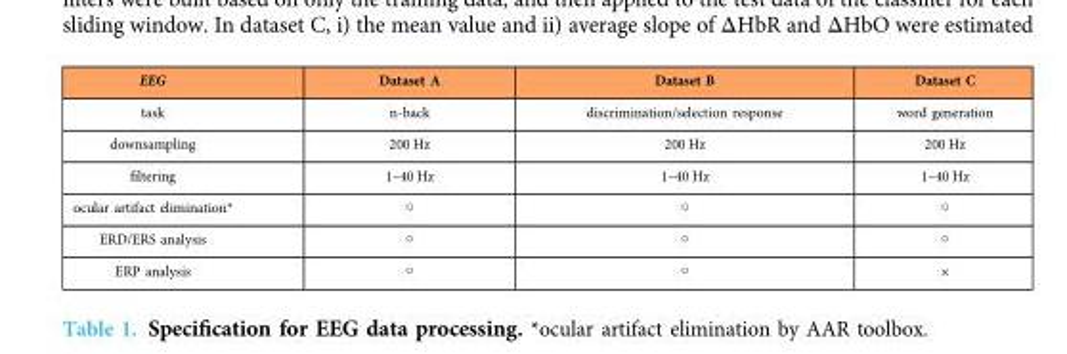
<table><thead><tr><td>EEG</td><td>Dataset A</td><td>Dataset B</td><td>Dataset C</td></tr></thead><tbody><tr><td>task</td><td>n-back</td><td>discrimination/selection response</td><td>word generation</td></tr><tr><td>downsampling</td><td>200 Hz</td><td>200 Hz</td><td>200 Hz</td></tr><tr><td>filtering</td><td>1–40 Hz</td><td>1–40 Hz</td><td>1–40 Hz</td></tr><tr><td>ocular artifact elimination*</td><td>○</td><td>○</td><td>○</td></tr><tr><td>ERD/ERS analysis</td><td>○</td><td>○</td><td>○</td></tr><tr><td>ERP analysis</td><td>○</td><td>○</td><td>×</td></tr></tbody></table>